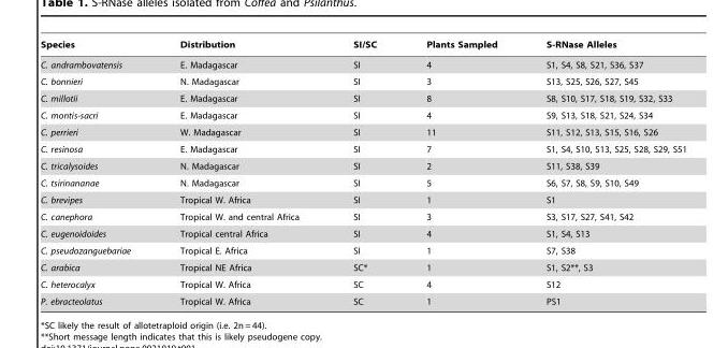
<table><thead><tr><td>Species</td><td>Distribution</td><td>SI/SC</td><td>Plants Sampled</td><td>S-RNase Alleles</td></tr></thead><tbody><tr><td>C. andrambovatensis</td><td>E. Madagascar</td><td>SI</td><td>4</td><td>S1, S4, S8, S21, S36, S37</td></tr><tr><td>C. bonnieri</td><td>N. Madagascar</td><td>SI</td><td>3</td><td>S13, S25, S26, S27, S45</td></tr><tr><td>C. millotii</td><td>E. Madagascar</td><td>SI</td><td>8</td><td>S8, S10, S17, S18, S19, S32, S33</td></tr><tr><td>C. montis-sacri</td><td>E. Madagascar</td><td>SI</td><td>4</td><td>S9, S13, S18, S21, S24, S34</td></tr><tr><td>C. perrieri</td><td>W. Madagascar</td><td>SI</td><td>11</td><td>S11, S12, S13, S15, S16, S26</td></tr><tr><td>C. resinosa</td><td>E. Madagascar</td><td>SI</td><td>7</td><td>S1, S4, S10, S13, S25, S28, S29, S51</td></tr><tr><td>C. tricalysoides</td><td>N. Madagascar</td><td>SI</td><td>2</td><td>S11, S38, S39</td></tr><tr><td>C. tsirinananae</td><td>N. Madagascar</td><td>SI</td><td>5</td><td>S6, S7, S8, S9, S10, S49</td></tr><tr><td>C. brevipes</td><td>Tropical W. Africa</td><td>SI</td><td>1</td><td>S1</td></tr><tr><td>C. canephora</td><td>Tropical W. and central Africa</td><td>SI</td><td>3</td><td>S3, S17, S27, S41, S42</td></tr><tr><td>C. eugenoidoides</td><td>Tropical central Africa</td><td>SI</td><td>4</td><td>S1, S4, S13</td></tr><tr><td>C. pseudozanguebariae</td><td>Tropical E. Africa</td><td>SI</td><td>1</td><td>S7, S38</td></tr><tr><td>C. arabica</td><td>Tropical NE Africa</td><td>SC*</td><td>1</td><td>S1, S2**, S3</td></tr><tr><td>C. heterocalyx</td><td>Tropical W. Africa</td><td>SC</td><td>4</td><td>S12</td></tr><tr><td>P. ebracteolatus</td><td>Tropical W. Africa</td><td>SC</td><td>1</td><td>PS1</td></tr></tbody></table>